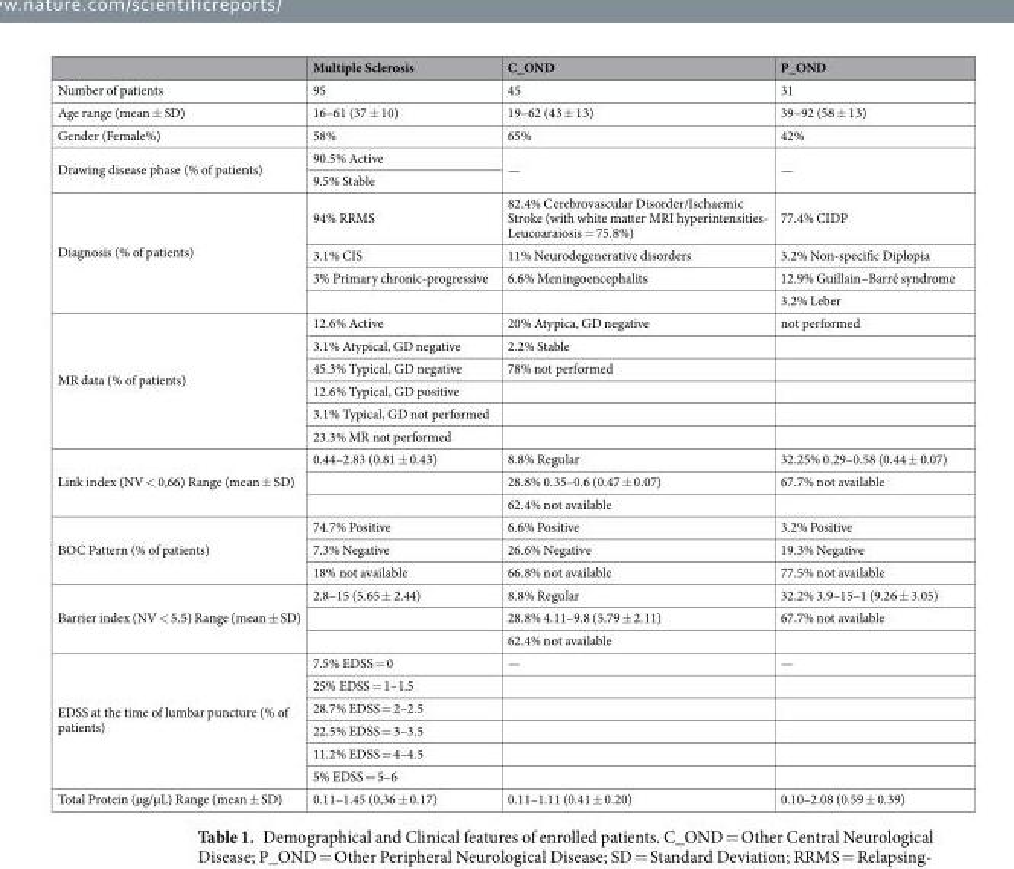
<table><thead><tr><td></td><td>Multiple Sclerosis</td><td>C_OND</td><td>P_OND</td></tr></thead><tbody><tr><td>Number of patients</td><td>95</td><td>45</td><td>31</td></tr><tr><td>Age range (mean ± SD)</td><td>16–61 (37 ± 10)</td><td>19–62 (43 ± 13)</td><td>39–92 (58 ± 13)</td></tr><tr><td>Gender (Female%)</td><td>58%</td><td>65%</td><td>42%</td></tr><tr><td rowspan="2">Drawing disease phase (% of patients)</td><td>90.5% Active</td><td rowspan="2">—</td><td rowspan="2">—</td></tr><tr><td>9.5% Stable</td></tr><tr><td rowspan="4">Diagnosis (% of patients)</td><td>94% RRMS</td><td>82.4% Cerebrovascular Disorder/Ischaemic Stroke (with white matter MRI hyperintensities- Leucoaraiosis = 75.8%)</td><td>77.4% CIDP</td></tr><tr><td>3.1% CIS</td><td>11% Neurodegenerative disorders</td><td>3.2% Non-specific Diplopia</td></tr><tr><td>3% Primary chronic-progressive</td><td>6.6% Meningoencephalits</td><td>12.9% Guillain–Barré syndrome</td></tr><tr><td></td><td></td><td>3.2% Leber</td></tr><tr><td rowspan="6">MR data (% of patients)</td><td>12.6% Active</td><td>20% Atypica, GD negative</td><td>not performed</td></tr><tr><td>3.1% Atypical, GD negative</td><td>2.2% Stable</td><td></td></tr><tr><td>45.3% Typical, GD negative</td><td>78% not performed</td><td></td></tr><tr><td>12.6% Typical, GD positive</td><td></td><td></td></tr><tr><td>3.1% Typical, GD not performed</td><td></td><td></td></tr><tr><td>23.3% MR not performed</td><td></td><td></td></tr><tr><td rowspan="3">Link index (NV &lt; 0,66) Range (mean ± SD)</td><td>0.44–2.83 (0.81 ± 0.43)</td><td>8.8% Regular</td><td>32.25% 0.29–0.58 (0.44 ± 0.07)</td></tr><tr><td></td><td>28.8% 0.35–0.6 (0.47 ± 0.07)</td><td>67.7% not available</td></tr><tr><td></td><td>62.4% not available</td><td></td></tr><tr><td rowspan="3">BOC Pattern (% of patients)</td><td>74.7% Positive</td><td>6.6% Positive</td><td>3.2% Positive</td></tr><tr><td>7.3% Negative</td><td>26.6% Negative</td><td>19.3% Negative</td></tr><tr><td>18% not available</td><td>66.8% not available</td><td>77.5% not available</td></tr><tr><td rowspan="3">Barrier index (NV &lt; 5.5) Range (mean ± SD)</td><td>2.8–15 (5.65 ± 2.44)</td><td>8.8% Regular</td><td>32.2% 3.9–15–1 (9.26 ± 3.05)</td></tr><tr><td></td><td>28.8% 4.11–9.8 (5.79 ± 2.11)</td><td>67.7% not available</td></tr><tr><td></td><td>62.4% not available</td><td></td></tr><tr><td rowspan="6">EDSS at the time of lumbar puncture (% of patients)</td><td>7.5% EDSS = 0</td><td>—</td><td>—</td></tr><tr><td>25% EDSS = 1–1.5</td><td></td><td></td></tr><tr><td>28.7% EDSS = 2–2.5</td><td></td><td></td></tr><tr><td>22.5% EDSS = 3–3.5</td><td></td><td></td></tr><tr><td>11.2% EDSS = 4–4.5</td><td></td><td></td></tr><tr><td>5% EDSS = 5–6</td><td></td><td></td></tr><tr><td>Total Protein (µg/µL) Range (mean ± SD)</td><td>0.11–1.45 (0,36 ± 0.17)</td><td>0.11–1.11 (0.41 ± 0.20)</td><td>0.10–2.08 (0.59 ± 0.39)</td></tr></tbody></table>